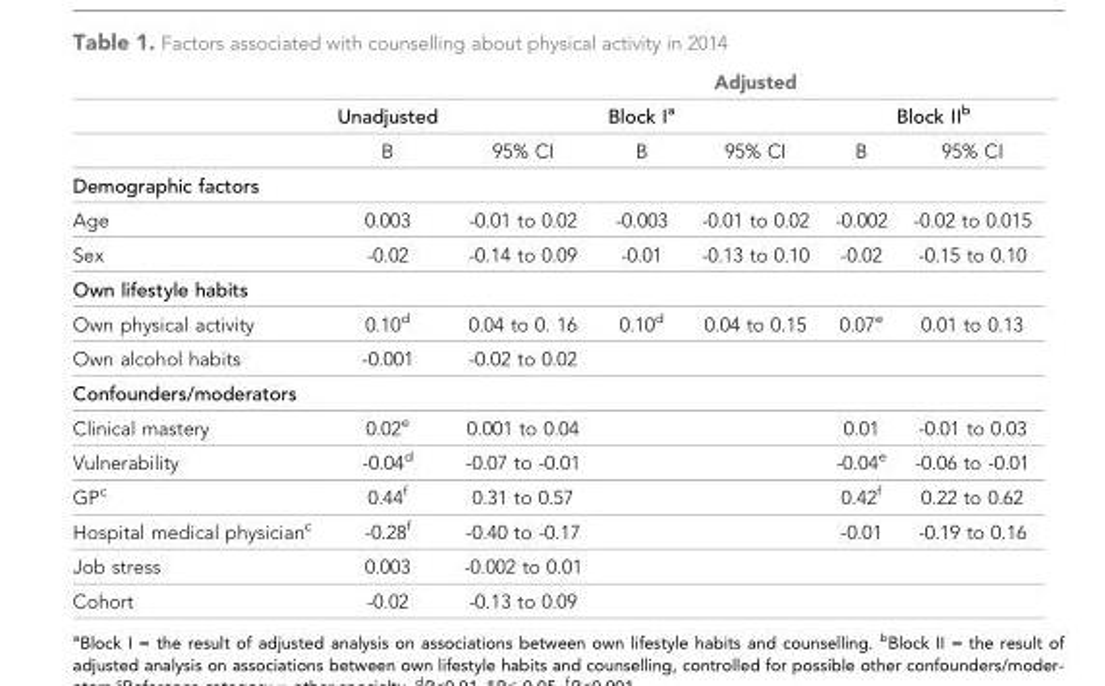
<table><thead><tr><td></td><td></td><td></td><td></td><td>Adjusted</td><td></td><td></td></tr></thead><tbody><tr><td></td><td>Unadjusted</td><td></td><td>Block I<sup>a</sup></td><td></td><td colspan="2">Block II<sup>b</sup></td></tr><tr><td></td><td>B</td><td>95% CI</td><td>B</td><td>95% CI</td><td>B</td><td>95% CI</td></tr><tr><td colspan="7">Demographic factors</td></tr><tr><td>Age</td><td>0.003</td><td>-0.01 to 0.02</td><td>-0.003</td><td>-0.01 to 0.02</td><td>-0.002</td><td>-0.02 to 0.015</td></tr><tr><td>Sex</td><td>-0.02</td><td>-0.14 to 0.09</td><td>-0.01</td><td>-0.13 to 0.10</td><td>-0.02</td><td>-0.15 to 0.10</td></tr><tr><td colspan="7">Own lifestyle habits</td></tr><tr><td>Own physical activity</td><td>0.10<sup>d</sup></td><td>0.04 to 0. 16</td><td>0.10<sup>d</sup></td><td>0.04 to 0.15</td><td>0.07<sup>e</sup></td><td>0.01 to 0.13</td></tr><tr><td>Own alcohol habits</td><td>-0.001</td><td>-0.02 to 0.02</td><td></td><td></td><td></td><td></td></tr><tr><td colspan="7">Confounders/moderators</td></tr><tr><td>Clinical mastery</td><td>0.02<sup>e</sup></td><td>0.001 to 0.04</td><td></td><td></td><td>0.01</td><td>-0.01 to 0.03</td></tr><tr><td>Vulnerability</td><td>-0.04<sup>d</sup></td><td>-0.07 to -0.01</td><td></td><td></td><td>-0.04<sup>e</sup></td><td>-0.06 to -0.01</td></tr><tr><td>GP<sup>c</sup></td><td>0.44<sup>f</sup></td><td>0.31 to 0.57</td><td></td><td></td><td>0.42<sup>f</sup></td><td>0.22 to 0.62</td></tr><tr><td>Hospital medical physician<sup>c</sup></td><td>-0.28<sup>f</sup></td><td>-0.40 to -0.17</td><td></td><td></td><td>-0.01</td><td>-0.19 to 0.16</td></tr><tr><td>Job stress</td><td>0.003</td><td>-0.002 to 0.01</td><td></td><td></td><td></td><td></td></tr><tr><td>Cohort</td><td>-0.02</td><td>-0.13 to 0.09</td><td></td><td></td><td></td><td></td></tr></tbody></table>